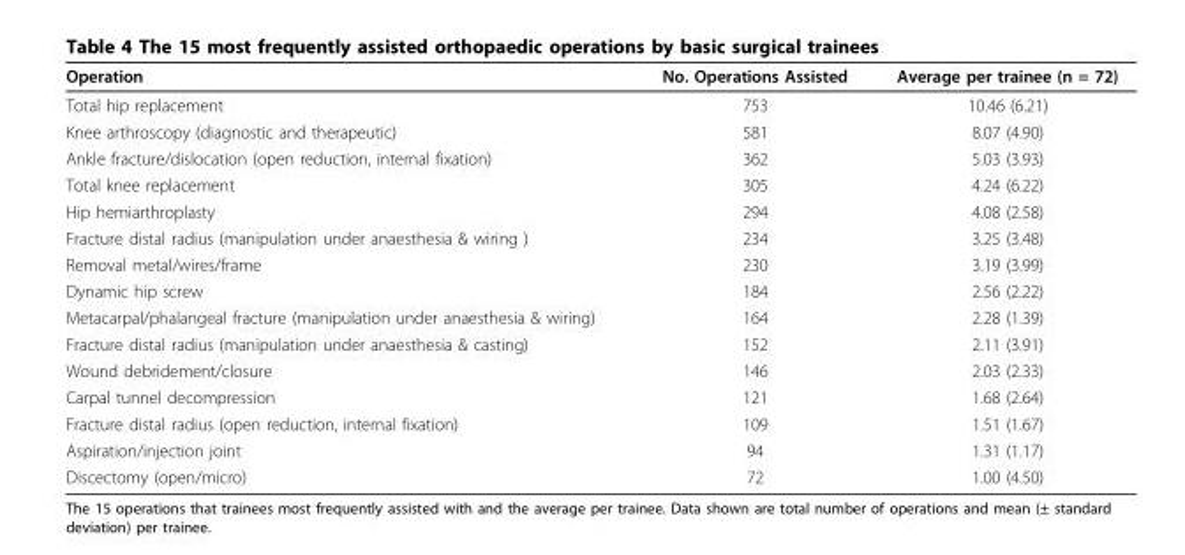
<table><thead><tr><td>Operation</td><td>No. Operations Assisted</td><td>Average per trainee (n = 72)</td></tr></thead><tbody><tr><td>Total hip replacement</td><td>753</td><td>10.46 (6.21)</td></tr><tr><td>Knee arthroscopy (diagnostic and therapeutic)</td><td>581</td><td>8.07 (4.90)</td></tr><tr><td>Ankle fracture/dislocation (open reduction, internal fixation)</td><td>362</td><td>5.03 (3.93)</td></tr><tr><td>Total knee replacement</td><td>305</td><td>4.24 (6.22)</td></tr><tr><td>Hip hemiarthroplasty</td><td>294</td><td>4.08 (2.58)</td></tr><tr><td>Fracture distal radius (manipulation under anaesthesia &amp; wiring )</td><td>234</td><td>3.25 (3.48)</td></tr><tr><td>Removal metal/wires/frame</td><td>230</td><td>3.19 (3.99)</td></tr><tr><td>Dynamic hip screw</td><td>184</td><td>2.56 (2.22)</td></tr><tr><td>Metacarpal/phalangeal fracture (manipulation under anaesthesia &amp; wiring)</td><td>164</td><td>2.28 (1.39)</td></tr><tr><td>Fracture distal radius (manipulation under anaesthesia &amp; casting)</td><td>152</td><td>2.11 (3.91)</td></tr><tr><td>Wound debridement/closure</td><td>146</td><td>2.03 (2.33)</td></tr><tr><td>Carpal tunnel decompression</td><td>121</td><td>1.68 (2.64)</td></tr><tr><td>Fracture distal radius (open reduction, internal fixation)</td><td>109</td><td>1.51 (1.67)</td></tr><tr><td>Aspiration/injection joint</td><td>94</td><td>1.31 (1.17)</td></tr><tr><td>Discectomy (open/micro)</td><td>72</td><td>1.00 (4.50)</td></tr></tbody></table>